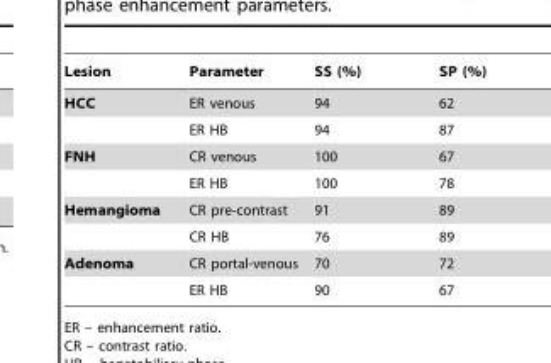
<table><thead><tr><td>Lesion</td><td>Parameter</td><td>SS (%)</td><td>SP (%)</td></tr></thead><tbody><tr><td rowspan="2">HCC</td><td>ER venous</td><td>94</td><td>62</td></tr><tr><td>ER HB</td><td>94</td><td>87</td></tr><tr><td rowspan="2">FNH</td><td>CR venous</td><td>100</td><td>67</td></tr><tr><td>ER HB</td><td>100</td><td>78</td></tr><tr><td rowspan="2">Hemangioma</td><td>CR pre-contrast</td><td>91</td><td>89</td></tr><tr><td>CR HB</td><td>76</td><td>89</td></tr><tr><td rowspan="2">Adenoma</td><td>CR portal-venous</td><td>70</td><td>72</td></tr><tr><td>ER HB</td><td>90</td><td>67</td></tr></tbody></table>